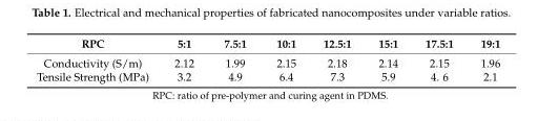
<table><thead><tr><td>RPC</td><td>5:1</td><td>7.5:1</td><td>10:1</td><td>12.5:1</td><td>15:1</td><td>17.5:1</td><td>19:1</td></tr></thead><tbody><tr><td>Conductivity (S/m)</td><td>2.12</td><td>1.99</td><td>2.15</td><td>2.18</td><td>2.14</td><td>2.15</td><td>1.96</td></tr><tr><td>Tensile Strength (MPa)</td><td>3.2</td><td>4.9</td><td>6.4</td><td>7.3</td><td>5.9</td><td>4. 6</td><td>2.1</td></tr></tbody></table>